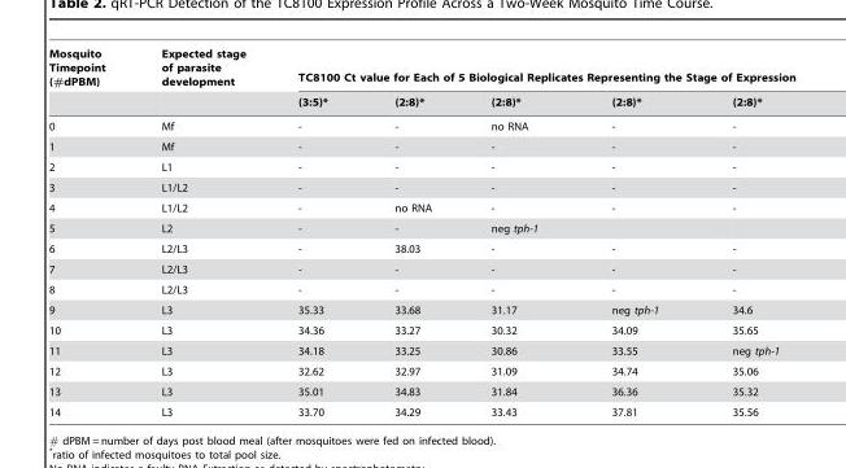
<table><thead><tr><td rowspan="2">Mosquito Timepoint (#dPBM)</td><td rowspan="2">Expected stage of parasite development</td><td colspan="5">TC8100 Ct value for Each of 5 Biological Replicates Representing the Stage of Expression</td></tr><tr><td>(3:5)*</td><td>(2:8)*</td><td>(2:8)*</td><td>(2:8)*</td><td>(2:8)*</td></tr></thead><tbody><tr><td>0</td><td>Mf</td><td>-</td><td>-</td><td>no RNA</td><td>-</td><td>-</td></tr><tr><td>1</td><td>Mf</td><td>-</td><td>-</td><td>-</td><td>-</td><td>-</td></tr><tr><td>2</td><td>L1</td><td>-</td><td>-</td><td>-</td><td>-</td><td>-</td></tr><tr><td>3</td><td>L1/L2</td><td>-</td><td>-</td><td>-</td><td>-</td><td>-</td></tr><tr><td>4</td><td>L1/L2</td><td>-</td><td>no RNA</td><td>-</td><td>-</td><td>-</td></tr><tr><td>5</td><td>L2</td><td>-</td><td>-</td><td>neg tph-1</td><td></td><td></td></tr><tr><td>6</td><td>L2/L3</td><td>-</td><td>38.03</td><td>-</td><td>-</td><td>-</td></tr><tr><td>7</td><td>L2/L3</td><td>-</td><td>-</td><td>-</td><td>-</td><td>-</td></tr><tr><td>8</td><td>L2/L3</td><td>-</td><td>-</td><td>-</td><td>-</td><td>-</td></tr><tr><td>9</td><td>L3</td><td>35.33</td><td>33.68</td><td>31.17</td><td>neg tph-1</td><td>34.6</td></tr><tr><td>10</td><td>L3</td><td>34.36</td><td>33.27</td><td>30.32</td><td>34.09</td><td>35.65</td></tr><tr><td>11</td><td>L3</td><td>34.18</td><td>33.25</td><td>30.86</td><td>33.55</td><td>neg tph-1</td></tr><tr><td>12</td><td>L3</td><td>32.62</td><td>32.97</td><td>31.09</td><td>34.74</td><td>35.06</td></tr><tr><td>13</td><td>L3</td><td>35.01</td><td>34.83</td><td>31.84</td><td>36.36</td><td>35.32</td></tr><tr><td>14</td><td>L3</td><td>33.70</td><td>34.29</td><td>33.43</td><td>37.81</td><td>35.56</td></tr></tbody></table>